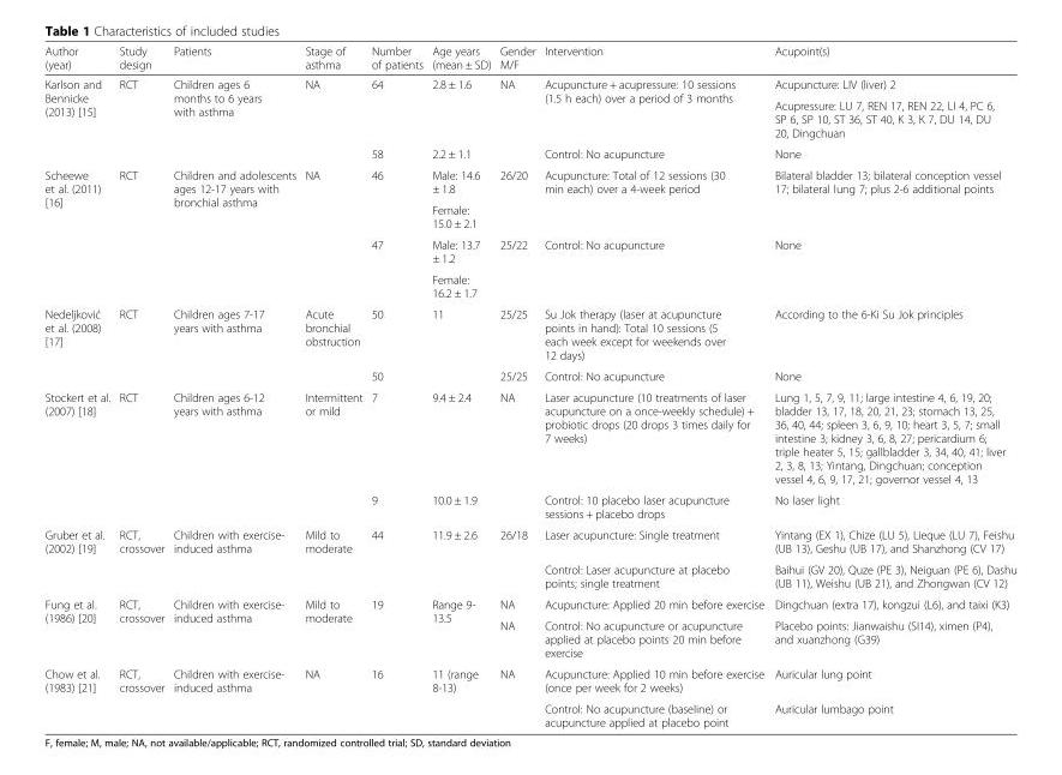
<table><thead><tr><td>Author (year)</td><td>Study design</td><td>Patients</td><td>Stage of asthma</td><td>Number of patients</td><td>Age years (mean ± SD)</td><td>Gender M/F</td><td>Intervention</td><td>Acupoint(s)</td></tr></thead><tbody><tr><td rowspan="3">Karlson and Bennicke (2013) [15]</td><td rowspan="3">RCT</td><td rowspan="3">Children ages 6 months to 6 years with asthma</td><td rowspan="3">NA</td><td rowspan="2">64</td><td rowspan="2">2.8 ± 1.6</td><td rowspan="3">NA</td><td rowspan="2">Acupuncture + acupressure: 10 sessions (1.5 h each) over a period of 3 months</td><td>Acupuncture: LIV (liver) 2</td></tr><tr><td>Acupressure: LU 7, REN 17, REN 22, LI 4, PC 6, SP 6, SP 10, ST 36, ST 40, K 3, K 7, DU 14, DU 20, Dingchuan</td></tr><tr><td>58</td><td>2.2 ± 1.1</td><td>Control: No acupuncture</td><td>None</td></tr><tr><td rowspan="4">Scheewe et al. (2011) [16]</td><td rowspan="4">RCT</td><td rowspan="4">Children and adolescents ages 12-17 years with bronchial asthma</td><td rowspan="4">NA</td><td rowspan="2">46</td><td>Male: 14.6 ± 1.8</td><td rowspan="2">26/20</td><td rowspan="2">Acupuncture: Total of 12 sessions (30 min each) over a 4-week period</td><td rowspan="2">Bilateral bladder 13; bilateral conception vessel 17; bilateral lung 7; plus 2-6 additional points</td></tr><tr><td>Female: 15.0 ± 2.1</td></tr><tr><td rowspan="2">47</td><td>Male: 13.7 ± 1.2</td><td rowspan="2">25/22</td><td rowspan="2">Control: No acupuncture</td><td rowspan="2">None</td></tr><tr><td>Female: 16.2 ± 1.7</td></tr><tr><td rowspan="2">Nedeljković et al. (2008) [17]</td><td rowspan="2">RCT</td><td rowspan="2">Children ages 7-17 years with asthma</td><td rowspan="2">Acute bronchial obstruction</td><td>50</td><td rowspan="2">11</td><td>25/25</td><td>Su Jok therapy (laser at acupuncture points in hand): Total 10 sessions (5 each week except for weekends over 12 days)</td><td>According to the 6-Ki Su Jok principles</td></tr><tr><td>50</td><td>25/25</td><td>Control: No acupuncture</td><td>None</td></tr><tr><td rowspan="2">Stockert et al. (2007) [18]</td><td rowspan="2">RCT</td><td rowspan="2">Children ages 6-12 years with asthma</td><td rowspan="2">Intermittent or mild</td><td>7</td><td>9.4 ± 2.4</td><td rowspan="2">NA</td><td>Laser acupuncture (10 treatments of laser acupuncture on a once-weekly schedule) + probiotic drops (20 drops 3 times daily for 7 weeks)</td><td>Lung 1, 5, 7, 9, 11; large intestine 4, 6, 19, 20; bladder 13, 17, 18, 20, 21, 23; stomach 13, 25, 36, 40, 44; spleen 3, 6, 9, 10; heart 3, 5, 7; small intestine 3; kidney 3, 6, 8, 27; pericardium 6; triple heater 5, 15; gallbladder 3, 34, 40, 41; liver 2, 3, 8, 13; Yintang, Dingchuan; conception vessel 4, 6, 9, 17, 21; governor vessel 4, 13</td></tr><tr><td>9</td><td>10.0 ± 1.9</td><td>Control: 10 placebo laser acupuncture sessions + placebo drops</td><td>No laser light</td></tr><tr><td rowspan="2">Gruber et al. (2002) [19]</td><td rowspan="2">RCT, crossover</td><td rowspan="2">Children with exercise- induced asthma</td><td rowspan="2">Mild to moderate</td><td rowspan="2">44</td><td rowspan="2">11.9 ± 2.6</td><td rowspan="2">26/18</td><td>Laser acupuncture: Single treatment</td><td>Yintang (EX 1), Chize (LU 5), Lieque (LU 7), Feishu (UB 13), Geshu (UB 17), and Shanzhong (CV 17)</td></tr><tr><td>Control: Laser acupuncture at placebo points; single treatment</td><td>Baihui (GV 20), Quze (PE 3), Neiguan (PE 6), Dashu (UB 11), Weishu (UB 21), and Zhongwan (CV 12)</td></tr><tr><td rowspan="2">Fung et al. (1986) [20]</td><td rowspan="2">RCT, crossover</td><td rowspan="2">Children with exercise- induced asthma</td><td rowspan="2">Mild to moderate</td><td rowspan="2">19</td><td rowspan="2">Range 9- 13.5</td><td>NA</td><td>Acupuncture: Applied 20 min before exercise</td><td>Dingchuan (extra 17), kongzui (L6), and taixi (K3)</td></tr><tr><td>NA</td><td>Control: No acupuncture or acupuncture applied at placebo points 20 min before exercise</td><td>Placebo points: Jianwaishu (SI14), ximen (P4), and xuanzhong (G39)</td></tr><tr><td rowspan="2">Chow et al. (1983) [21]</td><td rowspan="2">RCT, crossover</td><td rowspan="2">Children with exercise- induced asthma</td><td rowspan="2">NA</td><td rowspan="2">16</td><td rowspan="2">11 (range 8-13)</td><td rowspan="2">NA</td><td>Acupuncture: Applied 10 min before exercise (once per week for 2 weeks)</td><td>Auricular lung point</td></tr><tr><td>Control: No acupuncture (baseline) or acupuncture applied at placebo point</td><td>Auricular lumbago point</td></tr></tbody></table>